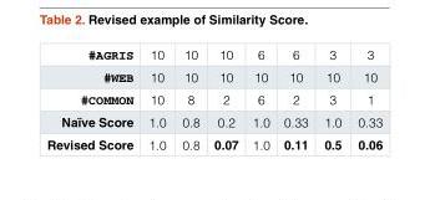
<table><tbody><tr><td>#AGRIS</td><td>10</td><td>10</td><td>10</td><td>6</td><td>6</td><td>3</td><td>3</td></tr><tr><td>#WEB</td><td>10</td><td>10</td><td>10</td><td>10</td><td>10</td><td>10</td><td>10</td></tr><tr><td>#COMMON</td><td>10</td><td>8</td><td>2</td><td>6</td><td>2</td><td>3</td><td>1</td></tr><tr><td>Naïve Score</td><td>1.0</td><td>0.8</td><td>0.2</td><td>1.0</td><td>0.33</td><td>1.0</td><td>0.33</td></tr><tr><td>Revised Score</td><td>1.0</td><td>0.8</td><td>0.07</td><td>1.0</td><td>0.11</td><td>0.5</td><td>0.06</td></tr></tbody></table>